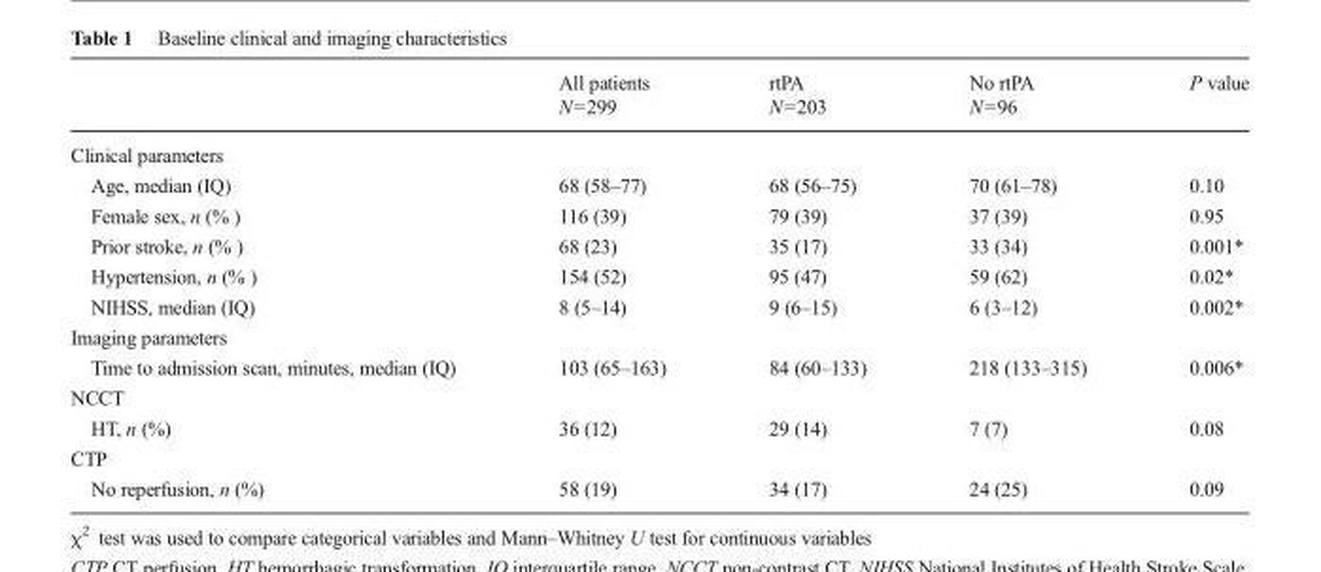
<table><thead><tr><td></td><td>All patients N=299</td><td>rtPA N=203</td><td>No rtPA N=96</td><td>P value</td></tr></thead><tbody><tr><td colspan="5">Clinical parameters</td></tr><tr><td>Age, median (IQ)</td><td>68 (58–77)</td><td>68 (56–75)</td><td>70 (61–78)</td><td>0.10</td></tr><tr><td>Female sex, n (% )</td><td>116 (39)</td><td>79 (39)</td><td>37 (39)</td><td>0.95</td></tr><tr><td>Prior stroke, n (% )</td><td>68 (23)</td><td>35 (17)</td><td>33 (34)</td><td>0.001*</td></tr><tr><td>Hypertension, n (% )</td><td>154 (52)</td><td>95 (47)</td><td>59 (62)</td><td>0.02*</td></tr><tr><td>NIHSS, median (IQ)</td><td>8 (5–14)</td><td>9 (6–15)</td><td>6 (3–12)</td><td>0.002*</td></tr><tr><td colspan="5">Imaging parameters</td></tr><tr><td>Time to admission scan, minutes, median (IQ)</td><td>103 (65–163)</td><td>84 (60–133)</td><td>218 (133–315)</td><td>0.006*</td></tr><tr><td colspan="5">NCCT</td></tr><tr><td>HT, n (%)</td><td>36 (12)</td><td>29 (14)</td><td>7 (7)</td><td>0.08</td></tr><tr><td colspan="5">CTP</td></tr><tr><td>No reperfusion, n (%)</td><td>58 (19)</td><td>34 (17)</td><td>24 (25)</td><td>0.09</td></tr></tbody></table>